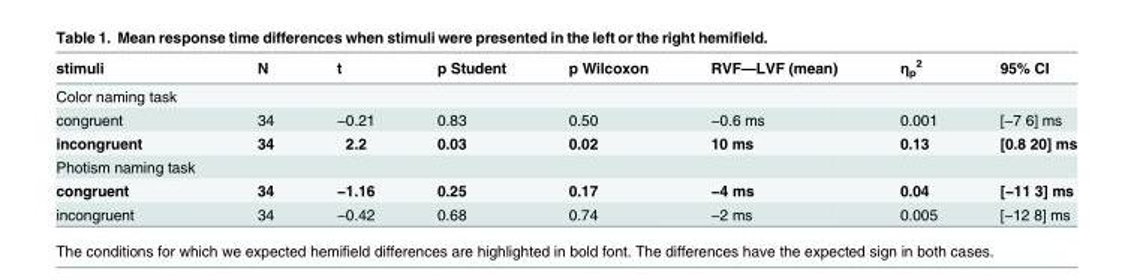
<table><thead><tr><td>stimuli</td><td>N</td><td>t</td><td>p Student</td><td>p Wilcoxon</td><td>RVF—LVF (mean)</td><td>η<sub>p</sub> <sup>2</sup></td><td>95% CI</td></tr></thead><tbody><tr><td colspan="8">Color naming task</td></tr><tr><td>congruent</td><td>34</td><td>−0.21</td><td>0.83</td><td>0.50</td><td>−0.6 ms</td><td>0.001</td><td>[−7 6] ms</td></tr><tr><td>incongruent</td><td>34</td><td>2.2</td><td>0.03</td><td>0.02</td><td>10 ms</td><td>0.13</td><td>[0.8 20] ms</td></tr><tr><td colspan="8">Photism naming task</td></tr><tr><td>congruent</td><td>34</td><td>−1.16</td><td>0.25</td><td>0.17</td><td>−4 ms</td><td>0.04</td><td>[−11 3] ms</td></tr><tr><td>incongruent</td><td>34</td><td>−0.42</td><td>0.68</td><td>0.74</td><td>−2 ms</td><td>0.005</td><td>[−12 8] ms</td></tr></tbody></table>